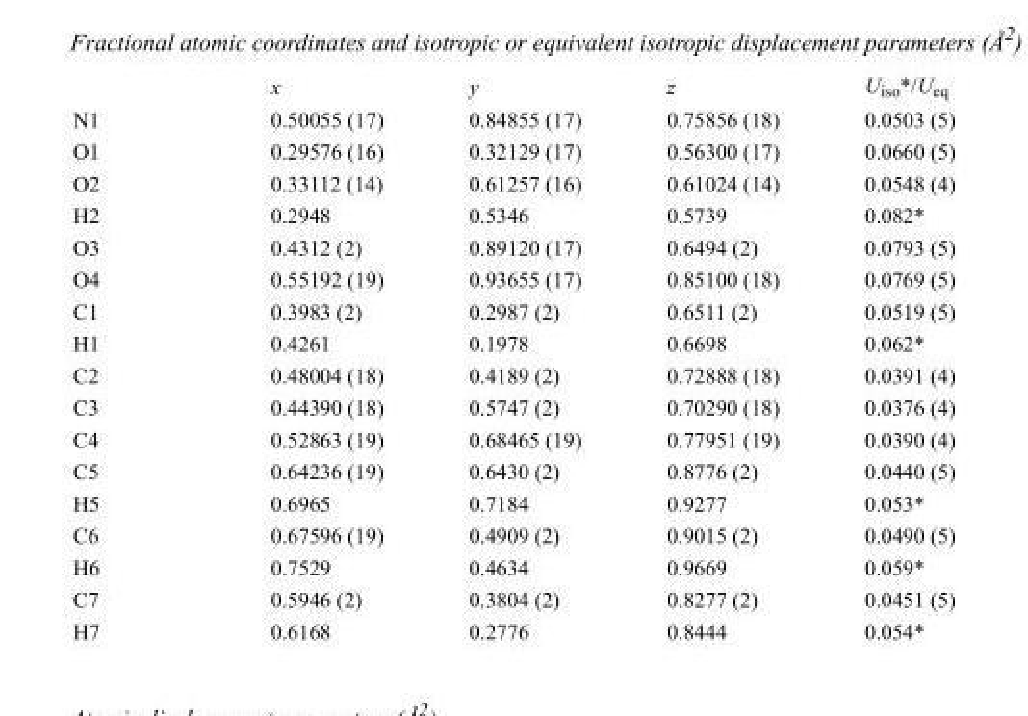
<table><thead><tr><td></td><td>x</td><td>y</td><td>z</td><td>U<sub>iso</sub>*/U<sub>eq</sub></td></tr></thead><tbody><tr><td>N1</td><td>0.50055 (17)</td><td>0.84855 (17)</td><td>0.75856 (18)</td><td>0.0503 (5)</td></tr><tr><td>O1</td><td>0.29576 (16)</td><td>0.32129 (17)</td><td>0.56300 (17)</td><td>0.0660 (5)</td></tr><tr><td>O2</td><td>0.33112 (14)</td><td>0.61257 (16)</td><td>0.61024 (14)</td><td>0.0548 (4)</td></tr><tr><td>H2</td><td>0.2948</td><td>0.5346</td><td>0.5739</td><td>0.082*</td></tr><tr><td>O3</td><td>0.4312 (2)</td><td>0.89120 (17)</td><td>0.6494 (2)</td><td>0.0793 (5)</td></tr><tr><td>O4</td><td>0.55192 (19)</td><td>0.93655 (17)</td><td>0.85100 (18)</td><td>0.0769 (5)</td></tr><tr><td>C1</td><td>0.3983 (2)</td><td>0.2987 (2)</td><td>0.6511 (2)</td><td>0.0519 (5)</td></tr><tr><td>H1</td><td>0.4261</td><td>0.1978</td><td>0.6698</td><td>0.062*</td></tr><tr><td>C2</td><td>0.48004 (18)</td><td>0.4189 (2)</td><td>0.72888 (18)</td><td>0.0391 (4)</td></tr><tr><td>C3</td><td>0.44390 (18)</td><td>0.5747 (2)</td><td>0.70290 (18)</td><td>0.0376 (4)</td></tr><tr><td>C4</td><td>0.52863 (19)</td><td>0.68465 (19)</td><td>0.77951 (19)</td><td>0.0390 (4)</td></tr><tr><td>C5</td><td>0.64236 (19)</td><td>0.6430 (2)</td><td>0.8776 (2)</td><td>0.0440 (5)</td></tr><tr><td>H5</td><td>0.6965</td><td>0.7184</td><td>0.9277</td><td>0.053*</td></tr><tr><td>C6</td><td>0.67596 (19)</td><td>0.4909 (2)</td><td>0.9015 (2)</td><td>0.0490 (5)</td></tr><tr><td>H6</td><td>0.7529</td><td>0.4634</td><td>0.9669</td><td>0.059*</td></tr><tr><td>C7</td><td>0.5946 (2)</td><td>0.3804 (2)</td><td>0.8277 (2)</td><td>0.0451 (5)</td></tr><tr><td>H7</td><td>0.6168</td><td>0.2776</td><td>0.8444</td><td>0.054*</td></tr></tbody></table>